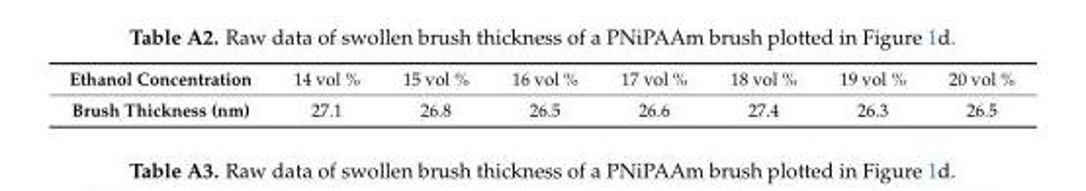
<table><tbody><tr><td>Ethanol Concentration</td><td>14 vol %</td><td>15 vol %</td><td>16 vol %</td><td>17 vol %</td><td>18 vol %</td><td>19 vol %</td><td>20 vol %</td></tr><tr><td>Brush Thickness (nm)</td><td>27.1</td><td>26.8</td><td>26.5</td><td>26.6</td><td>27.4</td><td>26.3</td><td>26.5</td></tr></tbody></table>